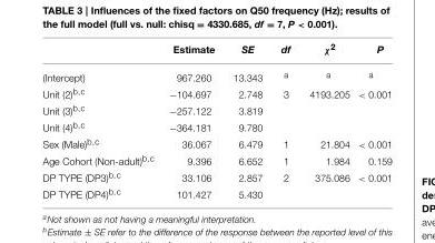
<table><thead><tr><td></td><td>Estimate</td><td>SE</td><td>df</td><td>χ<sup>2</sup></td><td>P</td></tr></thead><tbody><tr><td>(Intercept)</td><td>967.260</td><td>13.343</td><td><sup>a</sup></td><td><sup>a</sup></td><td><sup>a</sup></td></tr><tr><td>Unit (2)<sup>b,c</sup></td><td>−104.697</td><td>2.748</td><td>3</td><td>4193.205</td><td>&lt; 0.001</td></tr><tr><td>Unit (3)<sup>b,c</sup></td><td>−257.122</td><td>3.819</td><td></td><td></td><td></td></tr><tr><td>Unit (4)<sup>b,c</sup></td><td>−364.181</td><td>9.780</td><td></td><td></td><td></td></tr><tr><td>Sex (Male)<sup>b,c</sup></td><td>36.067</td><td>6.479</td><td>1</td><td>21.804</td><td>&lt; 0.001</td></tr><tr><td>Age Cohort (Non-adult)<sup>b,c</sup></td><td>9.396</td><td>6.652</td><td>1</td><td>1.984</td><td>0.159</td></tr><tr><td>DP TYPE (DP3)<sup>b,c</sup></td><td>33.106</td><td>2.857</td><td>2</td><td>375.086</td><td>&lt; 0.001</td></tr><tr><td>DP TYPE (DP4)<sup>b,c</sup></td><td>101.427</td><td>5.430</td><td></td><td></td><td></td></tr></tbody></table>